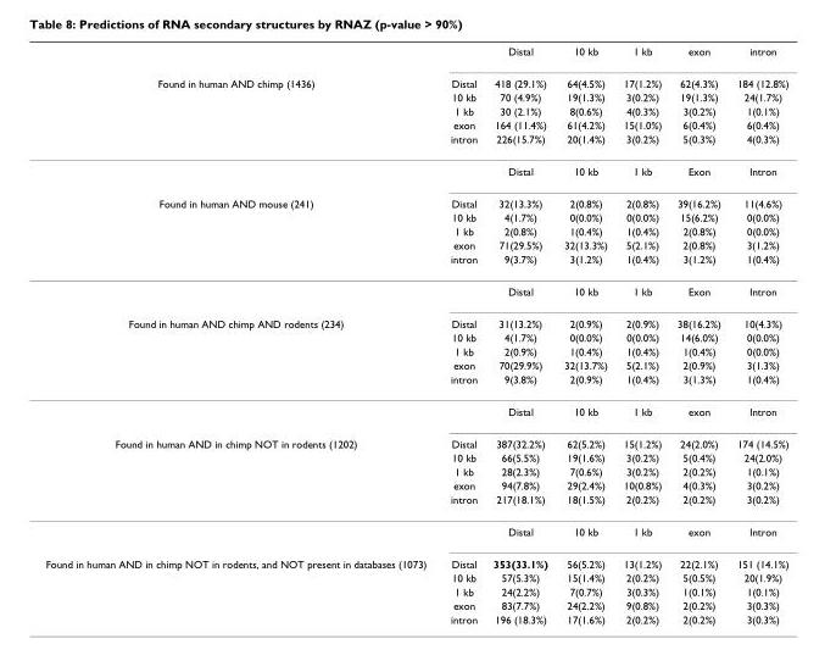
<table><thead><tr><td rowspan="6">Found in human AND chimp (1436)</td><td rowspan="6">Distal 10 kb 1 kb exon intron</td><td rowspan="6">Distal 418 (29.1%) 70 (4.9%) 30 (2.1%) 164 (11.4%) 226(15.7%)</td><td rowspan="6">10 kb 64(4.5%) 19(1.3%) 8(0.6%) 61(4.2%) 20(1.4%)</td><td rowspan="6">1 kb 17(1.2%) 3(0.2%) 4(0.3%) 15(1.0%) 3(0.2%)</td><td rowspan="6">exon 62(4.3%) 19(1.3%) 3(0.2%) 6(0.4%) 5(0.3%)</td><td rowspan="6">intron 184 (12.8%) 24(1.7%) 1(0.1%) 6(0.4%) 4(0.3%)</td></tr><tr></tr><tr></tr><tr></tr><tr></tr><tr></tr></thead><tbody><tr><td></td><td></td><td>Distal</td><td>10 kb</td><td>1 kb</td><td>Exon</td><td>Intron</td></tr><tr><td rowspan="6">Found in human AND mouse (241)</td><td>Distal</td><td>32(13.3%)</td><td>2(0.8%)</td><td>2(0.8%)</td><td>39(16.2%)</td><td>11(4.6%)</td></tr><tr><td>10 kb</td><td>4(1.7%)</td><td>0(0.0%)</td><td>0(0.0%)</td><td>15(6.2%)</td><td>0(0.0%)</td></tr><tr><td>1 kb</td><td>2(0.8%)</td><td>1(0.4%)</td><td>1(0.4%)</td><td>2(0.8%)</td><td>0(0.0%)</td></tr><tr><td>exon</td><td>71(29.5%)</td><td>32(13.3%)</td><td>5(2.1%)</td><td>2(0.8%)</td><td>3(1.2%)</td></tr><tr><td>intron</td><td>9(3.7%)</td><td>3(1.2%)</td><td>1(0.4%)</td><td>3(1.2%)</td><td>1(0.4%)</td></tr><tr><td></td><td>Distal</td><td>10 kb</td><td>1 kb</td><td>Exon</td><td>Intron</td></tr><tr><td rowspan="6">Found in human AND chimp AND rodents (234)</td><td>Distal</td><td>31(13.2%)</td><td>2(0.9%)</td><td>2(0.9%)</td><td>38(16.2%)</td><td>10(4.3%)</td></tr><tr><td>10 kb</td><td>4(1.7%)</td><td>0(0.0%)</td><td>0(0.0%)</td><td>14(6.0%)</td><td>0(0.0%)</td></tr><tr><td>1 kb</td><td>2(0.9%)</td><td>1(0.4%)</td><td>1(0.4%)</td><td>1(0.4%)</td><td>0(0.0%)</td></tr><tr><td>exon</td><td>70(29.9%)</td><td>32(13.7%)</td><td>5(2.1%)</td><td>2(0.9%)</td><td>3(1.3%)</td></tr><tr><td>intron</td><td>9(3.8%)</td><td>2(0.9%)</td><td>1(0.4%)</td><td>3(1.3%)</td><td>1(0.4%)</td></tr><tr><td></td><td>Distal</td><td>10 kb</td><td>1 kb</td><td>exon</td><td>Intron</td></tr><tr><td rowspan="6">Found in human AND in chimp NOT in rodents (1202)</td><td>Distal</td><td>387(32.2%)</td><td>62(5.2%)</td><td>15(1.2%)</td><td>24(2.0%)</td><td>174 (14.5%)</td></tr><tr><td>10 kb</td><td>66(5.5%)</td><td>19(1.6%)</td><td>3(0.2%)</td><td>5(0.4%)</td><td>24(2.0%)</td></tr><tr><td>1 kb</td><td>28(2.3%)</td><td>7(0.6%)</td><td>3(0.2%)</td><td>2(0.2%)</td><td>1(0.1%)</td></tr><tr><td>exon</td><td>94(7.8%)</td><td>29(2.4%)</td><td>10(0.8%)</td><td>4(0.3%)</td><td>3(0.2%)</td></tr><tr><td>intron</td><td>217(18.1%)</td><td>18(1.5%)</td><td>2(0.2%)</td><td>2(0.2%)</td><td>3(0.2%)</td></tr><tr><td></td><td>Distal</td><td>10 kb</td><td>1 kb</td><td>exon</td><td>Intron</td></tr><tr><td rowspan="5">Found in human AND in chimp NOT in rodents, and NOT present in databases (1073)</td><td>Distal</td><td>353(33.1%)</td><td>56(5.2%)</td><td>13(1.2%)</td><td>22(2.1%)</td><td>151 (14.1%)</td></tr><tr><td>10 kb</td><td>57(5.3%)</td><td>15(1.4%)</td><td>2(0.2%)</td><td>5(0.5%)</td><td>20(1.9%)</td></tr><tr><td>1 kb</td><td>24(2.2%)</td><td>7(0.7%)</td><td>3(0.3%)</td><td>1(0.1%)</td><td>1(0.1%)</td></tr><tr><td>exon</td><td>83(7.7%)</td><td>24(2.2%)</td><td>9(0.8%)</td><td>2(0.2%)</td><td>3(0.3%)</td></tr><tr><td>intron</td><td>196 (18.3%)</td><td>17(1.6%)</td><td>2(0.2%)</td><td>2(0.2%)</td><td>3(0.3%)</td></tr></tbody></table>